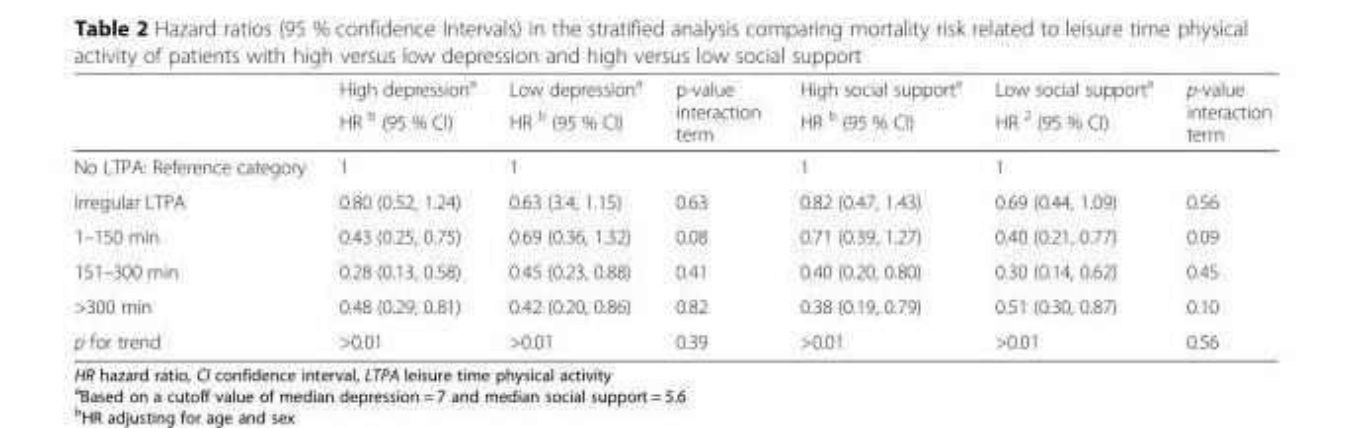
<table><thead><tr><td rowspan="2"></td><td rowspan="2">High depression<sup>a</sup> HR <sup>b</sup> (95 % CI)</td><td rowspan="2">Low depression<sup>a</sup> HR <sup>b</sup> (95 % CI)</td><td rowspan="2">p-value interaction term</td><td rowspan="2">High social support<sup>a</sup> HR <sup>b</sup> (95 % CI)</td><td rowspan="2">Low social support<sup>a</sup> HR <sup>2</sup> (95 % CI)</td><td rowspan="2">p-value interaction term</td></tr><tr></tr></thead><tbody><tr><td>No LTPA: Reference category</td><td>1</td><td>1</td><td></td><td>1</td><td>1</td><td></td></tr><tr><td>Irregular LTPA</td><td>0.80 (0.52, 1.24)</td><td>0.63 (3.4, 1.15)</td><td>0.63</td><td>0.82 (0.47, 1.43)</td><td>0.69 (0.44, 1.09)</td><td>0.56</td></tr><tr><td>1–150 min</td><td>0.43 (0.25, 0.75)</td><td>0.69 (0.36, 1.32)</td><td>0.08</td><td>0.71 (0.39, 1.27)</td><td>0.40 (0.21, 0.77)</td><td>0.09</td></tr><tr><td>151–300 min</td><td>0.28 (0.13, 0.58)</td><td>0.45 (0.23, 0.88)</td><td>0.41</td><td>0.40 (0.20, 0.80)</td><td>0.30 (0.14, 0.62)</td><td>0.45</td></tr><tr><td>&gt;300 min</td><td>0.48 (0.29, 0.81)</td><td>0.42 (0.20, 0.86)</td><td>0.82</td><td>0.38 (0.19, 0.79)</td><td>0.51 (0.30, 0.87)</td><td>0.10</td></tr><tr><td>p for trend</td><td>&gt;0.01</td><td>&gt;0.01</td><td>0.39</td><td>&gt;0.01</td><td>&gt;0.01</td><td>0.56</td></tr></tbody></table>